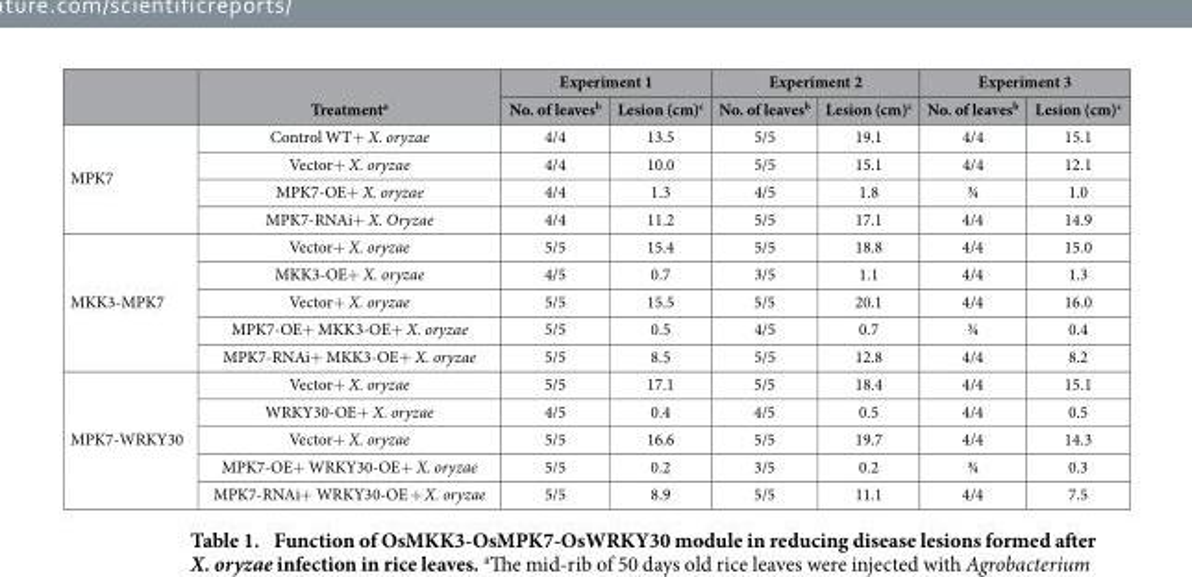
<table><thead><tr><td rowspan="2"></td><td rowspan="2">Treatment<sup>a</sup></td><td colspan="2">Experiment 1</td><td colspan="2">Experiment 2</td><td colspan="2">Experiment 3</td></tr><tr><td>No. of leaves<sup>b</sup></td><td>Lesion (cm)<sup>c</sup></td><td>No. of leaves<sup>b</sup></td><td>Lesion (cm)<sup>c</sup></td><td>No. of leaves<sup>b</sup></td><td>Lesion (cm)<sup>c</sup></td></tr></thead><tbody><tr><td rowspan="4">MPK7</td><td>Control WT+ X. oryzae</td><td>4/4</td><td>13.5</td><td>5/5</td><td>19.1</td><td>4/4</td><td>15.1</td></tr><tr><td>Vector+ X. oryzae</td><td>4/4</td><td>10.0</td><td>5/5</td><td>15.1</td><td>4/4</td><td>12.1</td></tr><tr><td>MPK7-OE+ X. oryzae</td><td>4/4</td><td>1.3</td><td>4/5</td><td>1.8</td><td>¾</td><td>1.0</td></tr><tr><td>MPK7-RNAi+ X. Oryzae</td><td>4/4</td><td>11.2</td><td>5/5</td><td>17.1</td><td>4/4</td><td>14.9</td></tr><tr><td rowspan="5">MKK3-MPK7</td><td>Vector+ X. oryzae</td><td>5/5</td><td>15.4</td><td>5/5</td><td>18.8</td><td>4/4</td><td>15.0</td></tr><tr><td>MKK3-OE+ X. oryzae</td><td>4/5</td><td>0.7</td><td>3/5</td><td>1.1</td><td>4/4</td><td>1.3</td></tr><tr><td>Vector+ X. oryzae</td><td>5/5</td><td>15.5</td><td>5/5</td><td>20.1</td><td>4/4</td><td>16.0</td></tr><tr><td>MPK7-OE+ MKK3-OE+ X. oryzae</td><td>5/5</td><td>0.5</td><td>4/5</td><td>0.7</td><td>¾</td><td>0.4</td></tr><tr><td>MPK7-RNAi+ MKK3-OE+ X. oryzae</td><td>5/5</td><td>8.5</td><td>5/5</td><td>12.8</td><td>4/4</td><td>8.2</td></tr><tr><td rowspan="5">MPK7-WRKY30</td><td>Vector+ X. oryzae</td><td>5/5</td><td>17.1</td><td>5/5</td><td>18.4</td><td>4/4</td><td>15.1</td></tr><tr><td>WRKY30-OE+ X. oryzae</td><td>4/5</td><td>0.4</td><td>4/5</td><td>0.5</td><td>4/4</td><td>0.5</td></tr><tr><td>Vector+ X. oryzae</td><td>5/5</td><td>16.6</td><td>5/5</td><td>19.7</td><td>4/4</td><td>14.3</td></tr><tr><td>MPK7-OE+ WRKY30-OE+ X. oryzae</td><td>5/5</td><td>0.2</td><td>3/5</td><td>0.2</td><td>¾</td><td>0.3</td></tr><tr><td>MPK7-RNAi+ WRKY30-OE + X. oryzae</td><td>5/5</td><td>8.9</td><td>5/5</td><td>11.1</td><td>4/4</td><td>7.5</td></tr></tbody></table>